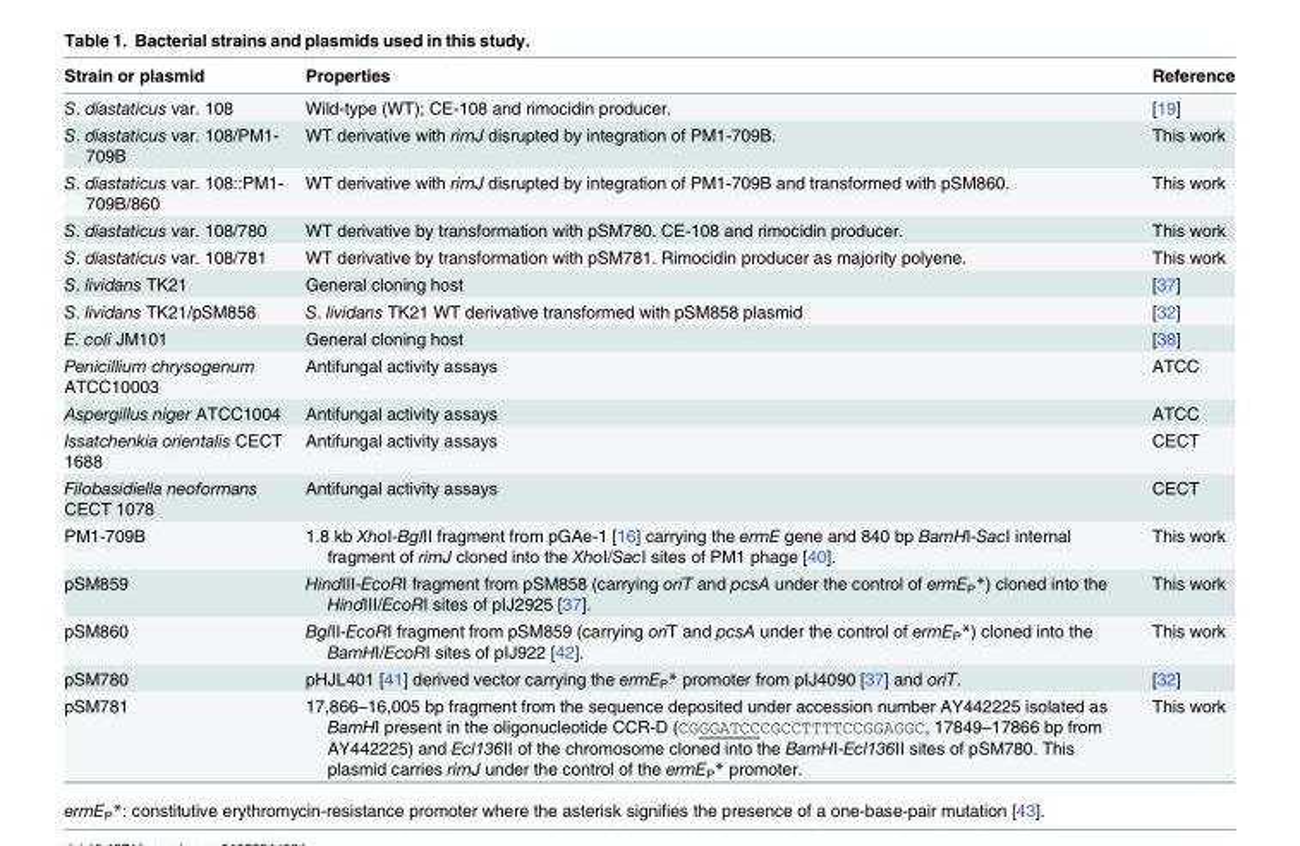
<table><thead><tr><td>Strain or plasmid</td><td>Properties</td><td>Reference</td></tr></thead><tbody><tr><td>S. diastaticus var. 108</td><td>Wild-type (WT); CE-108 and rimocidin producer.</td><td>[19]</td></tr><tr><td>S. diastaticus var. 108/PM1- 709B</td><td>WT derivative with rimJ disrupted by integration of PM1-709B.</td><td>This work</td></tr><tr><td>S. diastaticus var. 108::PM1- 709B/860</td><td>WT derivative with rimJ disrupted by integration of PM1-709B and transformed with pSM860.</td><td>This work</td></tr><tr><td>S. diastaticus var. 108/780</td><td>WT derivative by transformation with pSM780. CE-108 and rimocidin producer.</td><td>This work</td></tr><tr><td>S. diastaticus var. 108/781</td><td>WT derivative by transformation with pSM781. Rimocidin producer as majority polyene.</td><td>This work</td></tr><tr><td>S. lividans TK21</td><td>General cloning host</td><td>[37]</td></tr><tr><td>S. lividans TK21/pSM858</td><td>S. lividans TK21 WT derivative transformed with pSM858 plasmid</td><td>[32]</td></tr><tr><td>E. coli JM101</td><td>General cloning host</td><td>[38]</td></tr><tr><td>Penicillium chrysogenum ATCC10003</td><td>Antifungal activity assays</td><td>ATCC</td></tr><tr><td>Aspergillus niger ATCC1004</td><td>Antifungal activity assays</td><td>ATCC</td></tr><tr><td>Issatchenkia orientalis CECT 1688</td><td>Antifungal activity assays</td><td>CECT</td></tr><tr><td>Filobasidiella neoformans CECT 1078</td><td>Antifungal activity assays</td><td>CECT</td></tr><tr><td>PM1-709B</td><td>1.8 kb XhoI-BglII fragment from pGAe-1 [16] carrying the ermE gene and 840 bp BamHI-SacI internal fragment of rimJ cloned into the XhoI/SacI sites of PM1 phage [40].</td><td>This work</td></tr><tr><td>pSM859</td><td>HindIII-EcoRI fragment from pSM858 (carrying oriT and pcsA under the control of ermE<sub>P</sub>*) cloned into the HindIII/EcoRI sites of pIJ2925 [37].</td><td>This work</td></tr><tr><td>pSM860</td><td>BglII-EcoRI fragment from pSM859 (carrying oriT and pcsA under the control of ermE<sub>P</sub>*) cloned into the BamHI/EcoRI sites of pIJ922 [42].</td><td>This work</td></tr><tr><td>pSM780</td><td>pHJL401 [41] derived vector carrying the ermE<sub>P</sub>* promoter from pIJ4090 [37] and oriT.</td><td>[32]</td></tr><tr><td>pSM781</td><td>17,866–16,005 bp fragment from the sequence deposited under accession number AY442225 isolated as BamHI present in the oligonucleotide CCR-D (CGGGATCCCGCCTTTTCCGGAGGC, 17849–17866 bp from AY442225) and Ecl136II of the chromosome cloned into the BamHI-Ecl136II sites of pSM780. This plasmid carries rimJ under the control of the ermE<sub>P</sub>* promoter.</td><td>This work</td></tr></tbody></table>